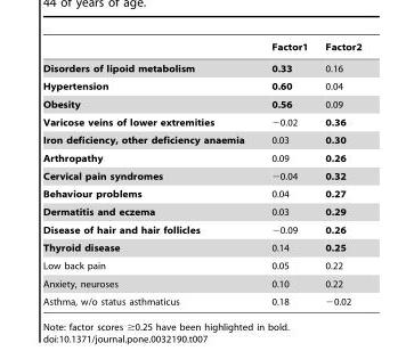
<table><thead><tr><td></td><td>Factor1</td><td>Factor2</td></tr></thead><tbody><tr><td>Disorders of lipoid metabolism</td><td>0.33</td><td>0.16</td></tr><tr><td>Hypertension</td><td>0.60</td><td>0.04</td></tr><tr><td>Obesity</td><td>0.56</td><td>0.09</td></tr><tr><td>Varicose veins of lower extremities</td><td>−0.02</td><td>0.36</td></tr><tr><td>Iron deficiency, other deficiency anaemia</td><td>0.03</td><td>0.30</td></tr><tr><td>Arthropathy</td><td>0.09</td><td>0.26</td></tr><tr><td>Cervical pain syndromes</td><td>−0.04</td><td>0.32</td></tr><tr><td>Behaviour problems</td><td>0.04</td><td>0.27</td></tr><tr><td>Dermatitis and eczema</td><td>0.03</td><td>0.29</td></tr><tr><td>Disease of hair and hair follicles</td><td>−0.09</td><td>0.26</td></tr><tr><td>Thyroid disease</td><td>0.14</td><td>0.25</td></tr><tr><td>Low back pain</td><td>0.05</td><td>0.22</td></tr><tr><td>Anxiety, neuroses</td><td>0.10</td><td>0.22</td></tr><tr><td>Asthma, w/o status asthmaticus</td><td>0.18</td><td>−0.02</td></tr></tbody></table>